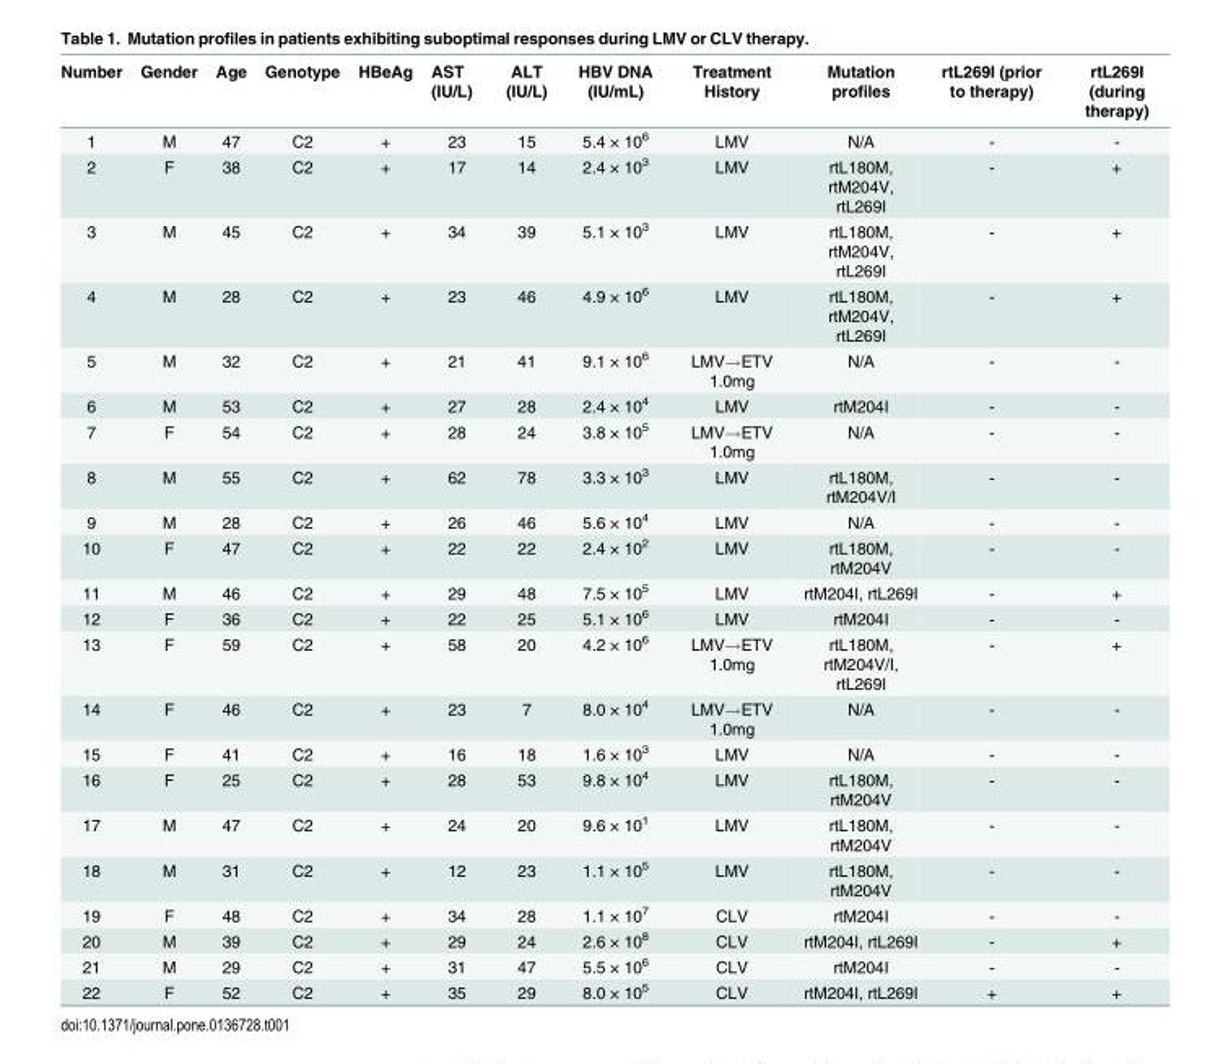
<table><thead><tr><td>Number</td><td>Gender</td><td>Age</td><td>Genotype</td><td>HBeAg</td><td>AST (IU/L)</td><td>ALT (IU/L)</td><td>HBV DNA (IU/mL)</td><td>Treatment History</td><td>Mutation profiles</td><td>rtL269I (prior to therapy)</td><td>rtL269I (during therapy)</td></tr></thead><tbody><tr><td>1</td><td>M</td><td>47</td><td>C2</td><td>+</td><td>23</td><td>15</td><td>5.4 × 10<sup>6</sup></td><td>LMV</td><td>N/A</td><td>-</td><td>-</td></tr><tr><td>2</td><td>F</td><td>38</td><td>C2</td><td>+</td><td>17</td><td>14</td><td>2.4 × 10<sup>3</sup></td><td>LMV</td><td>rtL180M, rtM204V, rtL269I</td><td>-</td><td>+</td></tr><tr><td>3</td><td>M</td><td>45</td><td>C2</td><td>+</td><td>34</td><td>39</td><td>5.1 × 10<sup>3</sup></td><td>LMV</td><td>rtL180M, rtM204V, rtL269I</td><td>-</td><td>+</td></tr><tr><td>4</td><td>M</td><td>28</td><td>C2</td><td>+</td><td>23</td><td>46</td><td>4.9 × 10<sup>6</sup></td><td>LMV</td><td>rtL180M, rtM204V, rtL269I</td><td>-</td><td>+</td></tr><tr><td>5</td><td>M</td><td>32</td><td>C2</td><td>+</td><td>21</td><td>41</td><td>9.1 × 10<sup>6</sup></td><td>LMV→ETV 1.0mg</td><td>N/A</td><td>-</td><td>-</td></tr><tr><td>6</td><td>M</td><td>53</td><td>C2</td><td>+</td><td>27</td><td>28</td><td>2.4 × 10<sup>4</sup></td><td>LMV</td><td>rtM204I</td><td>-</td><td>-</td></tr><tr><td>7</td><td>F</td><td>54</td><td>C2</td><td>+</td><td>28</td><td>24</td><td>3.8 × 10<sup>5</sup></td><td>LMV→ETV 1.0mg</td><td>N/A</td><td>-</td><td>-</td></tr><tr><td>8</td><td>M</td><td>55</td><td>C2</td><td>+</td><td>62</td><td>78</td><td>3.3 × 10<sup>3</sup></td><td>LMV</td><td>rtL180M, rtM204V/I</td><td>-</td><td>-</td></tr><tr><td>9</td><td>M</td><td>28</td><td>C2</td><td>+</td><td>26</td><td>46</td><td>5.6 × 10<sup>4</sup></td><td>LMV</td><td>N/A</td><td>-</td><td>-</td></tr><tr><td>10</td><td>F</td><td>47</td><td>C2</td><td>+</td><td>22</td><td>22</td><td>2.4 × 10<sup>2</sup></td><td>LMV</td><td>rtL180M, rtM204V</td><td>-</td><td>-</td></tr><tr><td>11</td><td>M</td><td>46</td><td>C2</td><td>+</td><td>29</td><td>48</td><td>7.5 × 10<sup>5</sup></td><td>LMV</td><td>rtM204I, rtL269I</td><td>-</td><td>+</td></tr><tr><td>12</td><td>F</td><td>36</td><td>C2</td><td>+</td><td>22</td><td>25</td><td>5.1 × 10<sup>6</sup></td><td>LMV</td><td>rtM204I</td><td>-</td><td>-</td></tr><tr><td>13</td><td>F</td><td>59</td><td>C2</td><td>+</td><td>58</td><td>20</td><td>4.2 × 10<sup>6</sup></td><td>LMV→ETV 1.0mg</td><td>rtL180M, rtM204V/I, rtL269I</td><td>-</td><td>+</td></tr><tr><td>14</td><td>F</td><td>46</td><td>C2</td><td>+</td><td>23</td><td>7</td><td>8.0 × 10<sup>4</sup></td><td>LMV→ETV 1.0mg</td><td>N/A</td><td>-</td><td>-</td></tr><tr><td>15</td><td>F</td><td>41</td><td>C2</td><td>+</td><td>16</td><td>18</td><td>1.6 × 10<sup>3</sup></td><td>LMV</td><td>N/A</td><td>-</td><td>-</td></tr><tr><td>16</td><td>F</td><td>25</td><td>C2</td><td>+</td><td>28</td><td>53</td><td>9.8 × 10<sup>4</sup></td><td>LMV</td><td>rtL180M, rtM204V</td><td>-</td><td>-</td></tr><tr><td>17</td><td>M</td><td>47</td><td>C2</td><td>+</td><td>24</td><td>20</td><td>9.6 × 10<sup>1</sup></td><td>LMV</td><td>rtL180M, rtM204V</td><td>-</td><td>-</td></tr><tr><td>18</td><td>M</td><td>31</td><td>C2</td><td>+</td><td>12</td><td>23</td><td>1.1 × 10<sup>5</sup></td><td>LMV</td><td>rtL180M, rtM204V</td><td>-</td><td>-</td></tr><tr><td>19</td><td>F</td><td>48</td><td>C2</td><td>+</td><td>34</td><td>28</td><td>1.1 × 10<sup>7</sup></td><td>CLV</td><td>rtM204I</td><td>-</td><td>-</td></tr><tr><td>20</td><td>M</td><td>39</td><td>C2</td><td>+</td><td>29</td><td>24</td><td>2.6 × 10<sup>8</sup></td><td>CLV</td><td>rtM204I, rtL269I</td><td>-</td><td>+</td></tr><tr><td>21</td><td>M</td><td>29</td><td>C2</td><td>+</td><td>31</td><td>47</td><td>5.5 × 10<sup>6</sup></td><td>CLV</td><td>rtM204I</td><td>-</td><td>-</td></tr><tr><td>22</td><td>F</td><td>52</td><td>C2</td><td>+</td><td>35</td><td>29</td><td>8.0 × 10<sup>5</sup></td><td>CLV</td><td>rtM204I, rtL269I</td><td>+</td><td>+</td></tr></tbody></table>